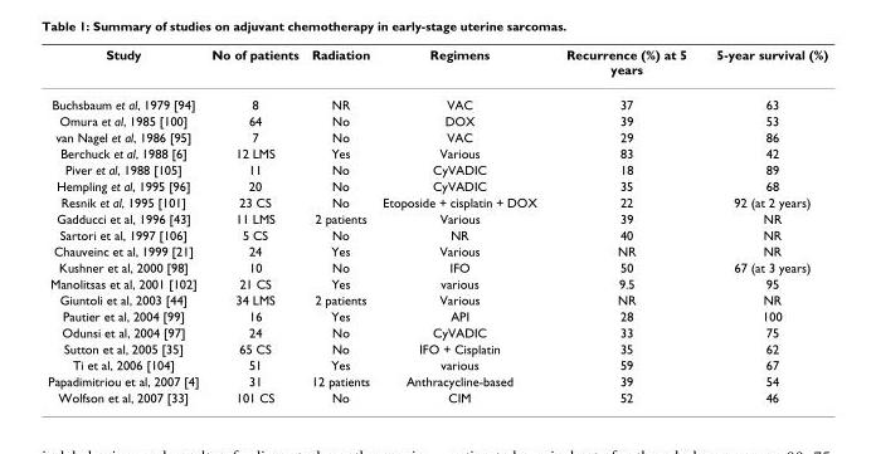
<table><thead><tr><td>Study</td><td>No of patients</td><td>Radiation</td><td>Regimens</td><td>Recurrence (%) at 5 years</td><td>5-year survival (%)</td></tr></thead><tbody><tr><td>Buchsbaum et al, 1979 [94]</td><td>8</td><td>NR</td><td>VAC</td><td>37</td><td>63</td></tr><tr><td>Omura et al, 1985 [100]</td><td>64</td><td>No</td><td>DOX</td><td>39</td><td>53</td></tr><tr><td>van Nagel et al, 1986 [95]</td><td>7</td><td>No</td><td>VAC</td><td>29</td><td>86</td></tr><tr><td>Berchuck et al, 1988 [6]</td><td>12 LMS</td><td>Yes</td><td>Various</td><td>83</td><td>42</td></tr><tr><td>Piver et al, 1988 [105]</td><td>11</td><td>No</td><td>CyVADIC</td><td>18</td><td>89</td></tr><tr><td>Hempling et al, 1995 [96]</td><td>20</td><td>No</td><td>CyVADIC</td><td>35</td><td>68</td></tr><tr><td>Resnik et al, 1995 [101]</td><td>23 CS</td><td>No</td><td>Etoposide + cisplatin + DOX</td><td>22</td><td>92 (at 2 years)</td></tr><tr><td>Gadducci et al, 1996 [43]</td><td>11 LMS</td><td>2 patients</td><td>Various</td><td>39</td><td>NR</td></tr><tr><td>Sartori et al, 1997 [106]</td><td>5 CS</td><td>No</td><td>NR</td><td>40</td><td>NR</td></tr><tr><td>Chauveinc et al, 1999 [21]</td><td>24</td><td>Yes</td><td>Various</td><td>NR</td><td>NR</td></tr><tr><td>Kushner et al, 2000 [98]</td><td>10</td><td>No</td><td>IFO</td><td>50</td><td>67 (at 3 years)</td></tr><tr><td>Manolitsas et al, 2001 [102]</td><td>21 CS</td><td>Yes</td><td>various</td><td>9.5</td><td>95</td></tr><tr><td>Giuntoli et al, 2003 [44]</td><td>34 LMS</td><td>2 patients</td><td>Various</td><td>NR</td><td>NR</td></tr><tr><td>Pautier et al, 2004 [99]</td><td>16</td><td>Yes</td><td>API</td><td>28</td><td>100</td></tr><tr><td>Odunsi et al, 2004 [97]</td><td>24</td><td>No</td><td>CyVADIC</td><td>33</td><td>75</td></tr><tr><td>Sutton et al, 2005 [35]</td><td>65 CS</td><td>No</td><td>IFO + Cisplatin</td><td>35</td><td>62</td></tr><tr><td>Ti et al, 2006 [104]</td><td>51</td><td>Yes</td><td>various</td><td>59</td><td>67</td></tr><tr><td>Papadimitriou et al, 2007 [4]</td><td>31</td><td>12 patients</td><td>Anthracycline-based</td><td>39</td><td>54</td></tr><tr><td>Wolfson et al, 2007 [33]</td><td>101 CS</td><td>No</td><td>CIM</td><td>52</td><td>46</td></tr></tbody></table>